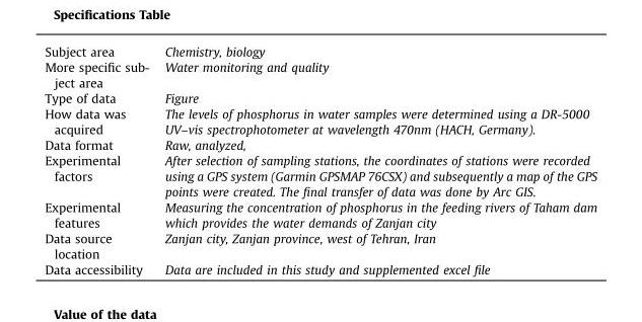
<table><tbody><tr><td>Subject area</td><td>Chemistry, biology</td></tr><tr><td>More specific sub- ject area</td><td>Water monitoring and quality</td></tr><tr><td>Type of data</td><td>Figure</td></tr><tr><td>How data was acquired</td><td>The levels of phosphorus in water samples were determined using a DR-5000 UV–vis spectrophotometer at wavelength 470nm (HACH, Germany).</td></tr><tr><td>Data format</td><td>Raw, analyzed,</td></tr><tr><td>Experimental factors</td><td>After selection of sampling stations, the coordinates of stations were recorded using a GPS system (Garmin GPSMAP 76CSX) and subsequently a map of the GPS points were created. The final transfer of data was done by Arc GIS.</td></tr><tr><td>Experimental features</td><td>Measuring the concentration of phosphorus in the feeding rivers of Taham dam which provides the water demands of Zanjan city</td></tr><tr><td>Data source location</td><td>Zanjan city, Zanjan province, west of Tehran, Iran</td></tr><tr><td>Data accessibility</td><td>Data are included in this study and supplemented excel file</td></tr></tbody></table>